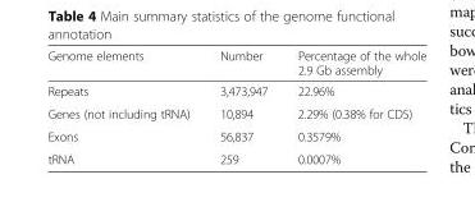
<table><thead><tr><td>Genome elements</td><td>Number</td><td>Percentage of the whole 2.9 Gb assembly</td></tr></thead><tbody><tr><td>Repeats</td><td>3,473,947</td><td>22.96%</td></tr><tr><td>Genes (not including tRNA)</td><td>10,894</td><td>2.29% (0.38% for CDS)</td></tr><tr><td>Exons</td><td>56,837</td><td>0.3579%</td></tr><tr><td>tRNA</td><td>259</td><td>0.0007%</td></tr></tbody></table>